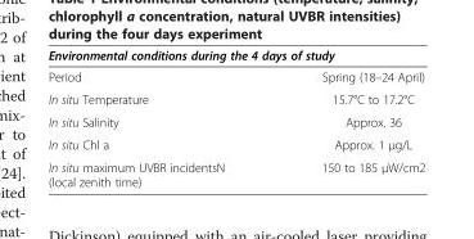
<table><thead><tr><td colspan="2">Environmental conditions during the 4 days of study</td></tr><tr><td>Period</td><td>Spring (18–24 April)</td></tr></thead><tbody><tr><td>In situ Temperature</td><td>15.7°C to 17.2°C</td></tr><tr><td>In situ Salinity</td><td>Approx. 36</td></tr><tr><td>In situ Chl a</td><td>Approx. 1 μg/L</td></tr><tr><td>In situ maximum UVBR incidentsN (local zenith time)</td><td>150 to 185 μW/cm2</td></tr></tbody></table>